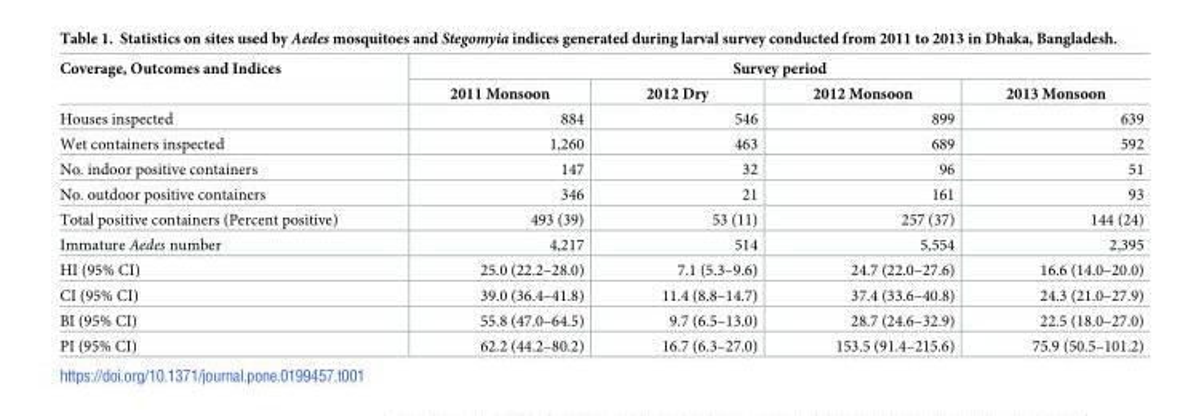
<table><thead><tr><td rowspan="2">Coverage, Outcomes and Indices</td><td colspan="4">Survey period</td></tr><tr><td>2011 Monsoon</td><td>2012 Dry</td><td>2012 Monsoon</td><td>2013 Monsoon</td></tr></thead><tbody><tr><td>Houses inspected</td><td>884</td><td>546</td><td>899</td><td>639</td></tr><tr><td>Wet containers inspected</td><td>1,260</td><td>463</td><td>689</td><td>592</td></tr><tr><td>No. indoor positive containers</td><td>147</td><td>32</td><td>96</td><td>51</td></tr><tr><td>No. outdoor positive containers</td><td>346</td><td>21</td><td>161</td><td>93</td></tr><tr><td>Total positive containers (Percent positive)</td><td>493 (39)</td><td>53 (11)</td><td>257 (37)</td><td>144 (24)</td></tr><tr><td>Immature Aedes number</td><td>4,217</td><td>514</td><td>5,554</td><td>2,395</td></tr><tr><td>HI (95% CI)</td><td>25.0 (22.2–28.0)</td><td>7.1 (5.3–9.6)</td><td>24.7 (22.0–27.6)</td><td>16.6 (14.0–20.0)</td></tr><tr><td>CI (95% CI)</td><td>39.0 (36.4–41.8)</td><td>11.4 (8.8–14.7)</td><td>37.4 (33.6–40.8)</td><td>24.3 (21.0–27.9)</td></tr><tr><td>BI (95% CI)</td><td>55.8 (47.0–64.5)</td><td>9.7 (6.5–13.0)</td><td>28.7 (24.6–32.9)</td><td>22.5 (18.0–27.0)</td></tr><tr><td>PI (95% CI)</td><td>62.2 (44.2–80.2)</td><td>16.7 (6.3–27.0)</td><td>153.5 (91.4–215.6)</td><td>75.9 (50.5–101.2)</td></tr></tbody></table>